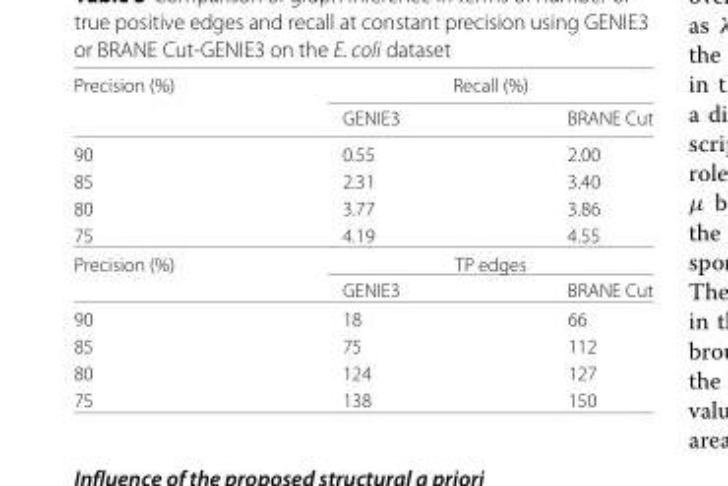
<table><thead><tr><td rowspan="2">Precision (%)</td><td colspan="2">Recall (%)</td></tr><tr><td>GENIE3</td><td>BRANE Cut</td></tr></thead><tbody><tr><td>90</td><td>0.55</td><td>2.00</td></tr><tr><td>85</td><td>2.31</td><td>3.40</td></tr><tr><td>80</td><td>3.77</td><td>3.86</td></tr><tr><td>75</td><td>4.19</td><td>4.55</td></tr><tr><td rowspan="2">Precision (%)</td><td colspan="2">TP edges</td></tr><tr><td>GENIE3</td><td>BRANE Cut</td></tr><tr><td>90</td><td>18</td><td>66</td></tr><tr><td>85</td><td>75</td><td>112</td></tr><tr><td>80</td><td>124</td><td>127</td></tr><tr><td>75</td><td>138</td><td>150</td></tr></tbody></table>